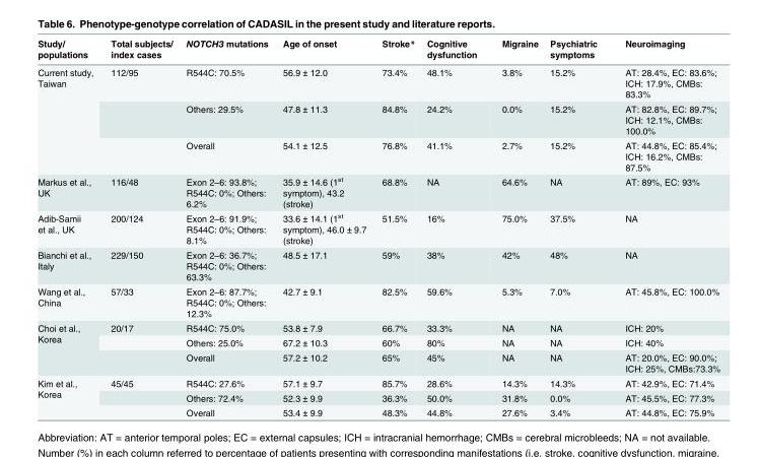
<table><thead><tr><td>Study/ populations</td><td>Total subjects/ index cases</td><td>NOTCH3 mutations</td><td>Age of onset</td><td>Stroke*</td><td>Cognitive dysfunction</td><td>Migraine</td><td>Psychiatric symptoms</td><td>Neuroimaging</td></tr></thead><tbody><tr><td rowspan="3">Current study, Taiwan</td><td>112/95</td><td>R544C: 70.5%</td><td>56.9 ± 12.0</td><td>73.4%</td><td>48.1%</td><td>3.8%</td><td>15.2%</td><td>AT: 28.4%, EC: 83.6%; ICH: 17.9%, CMBs: 83.3%</td></tr><tr><td></td><td>Others: 29.5%</td><td>47.8 ± 11.3</td><td>84.8%</td><td>24.2%</td><td>0.0%</td><td>15.2%</td><td>AT: 82.8%, EC: 89.7%; ICH: 12.1%, CMBs: 100.0%</td></tr><tr><td></td><td>Overall</td><td>54.1 ± 12.5</td><td>76.8%</td><td>41.1%</td><td>2.7%</td><td>15.2%</td><td>AT: 44.8%, EC: 85.4%; ICH: 16.2%, CMBs: 87.5%</td></tr><tr><td>Markus et al., UK</td><td>116/48</td><td>Exon 2–6: 93.8%; R544C: 0%; Others: 6.2%</td><td>35.9 ± 14.6 (1<sup>st</sup> symptom), 43.2 (stroke)</td><td>68.8%</td><td>NA</td><td>64.6%</td><td>NA</td><td>AT: 89%, EC: 93%</td></tr><tr><td>Adib-Samii et al., UK</td><td>200/124</td><td>Exon 2–6: 91.9%; R544C: 0%; Others: 8.1%</td><td>33.6 ± 14.1 (1<sup>st</sup> symptom), 46.0 ± 9.7 (stroke)</td><td>51.5%</td><td>16%</td><td>75.0%</td><td>37.5%</td><td>NA</td></tr><tr><td>Bianchi et al., Italy</td><td>229/150</td><td>Exon 2–6: 36.7%; R544C: 0%; Others: 63.3%</td><td>48.5 ± 17.1</td><td>59%</td><td>38%</td><td>42%</td><td>48%</td><td>NA</td></tr><tr><td>Wang et al., China</td><td>57/33</td><td>Exon 2–6: 87.7%; R544C: 0%; Others: 12.3%</td><td>42.7 ± 9.1</td><td>82.5%</td><td>59.6%</td><td>5.3%</td><td>7.0%</td><td>AT: 45.8%, EC: 100.0%</td></tr><tr><td rowspan="3">Choi et al., Korea</td><td>20/17</td><td>R544C: 75.0%</td><td>53.8 ± 7.9</td><td>66.7%</td><td>33.3%</td><td>NA</td><td>NA</td><td>ICH: 20%</td></tr><tr><td></td><td>Others: 25.0%</td><td>67.2 ± 10.3</td><td>60%</td><td>80%</td><td>NA</td><td>NA</td><td>ICH: 40%</td></tr><tr><td></td><td>Overall</td><td>57.2 ± 10.2</td><td>65%</td><td>45%</td><td>NA</td><td>NA</td><td>AT: 20.0%, EC: 90.0%; ICH: 25%, CMBs:73.3%</td></tr><tr><td rowspan="3">Kim et al., Korea</td><td>45/45</td><td>R544C: 27.6%</td><td>57.1 ± 9.7</td><td>85.7%</td><td>28.6%</td><td>14.3%</td><td>14.3%</td><td>AT: 42.9%, EC: 71.4%</td></tr><tr><td></td><td>Others: 72.4%</td><td>52.3 ± 9.9</td><td>36.3%</td><td>50.0%</td><td>31.8%</td><td>0.0%</td><td>AT: 45.5%, EC: 77.3%</td></tr><tr><td></td><td>Overall</td><td>53.4 ± 9.9</td><td>48.3%</td><td>44.8%</td><td>27.6%</td><td>3.4%</td><td>AT: 44.8%, EC: 75.9%</td></tr></tbody></table>